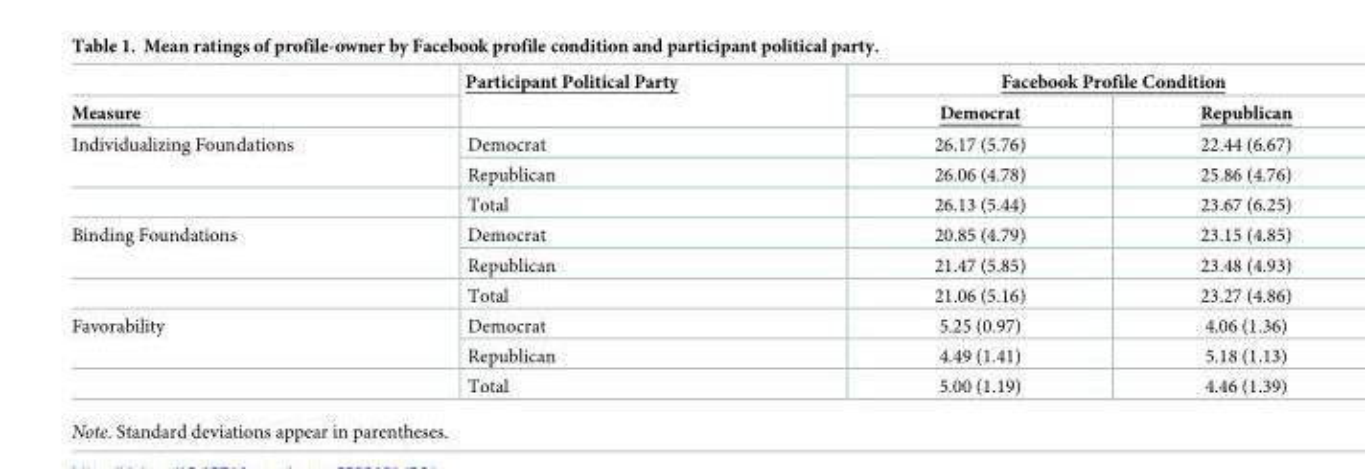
<table><thead><tr><td rowspan="2">Measure</td><td rowspan="2">Participant Political Party</td><td colspan="2">Facebook Profile Condition</td></tr><tr><td>Democrat</td><td>Republican</td></tr></thead><tbody><tr><td rowspan="3">Individualizing Foundations</td><td>Democrat</td><td>26.17 (5.76)</td><td>22.44 (6.67)</td></tr><tr><td>Republican</td><td>26.06 (4.78)</td><td>25.86 (4.76)</td></tr><tr><td>Total</td><td>26.13 (5.44)</td><td>23.67 (6.25)</td></tr><tr><td rowspan="3">Binding Foundations</td><td>Democrat</td><td>20.85 (4.79)</td><td>23.15 (4.85)</td></tr><tr><td>Republican</td><td>21.47 (5.85)</td><td>23.48 (4.93)</td></tr><tr><td>Total</td><td>21.06 (5.16)</td><td>23.27 (4.86)</td></tr><tr><td rowspan="3">Favorability</td><td>Democrat</td><td>5.25 (0.97)</td><td>4.06 (1.36)</td></tr><tr><td>Republican</td><td>4.49 (1.41)</td><td>5.18 (1.13)</td></tr><tr><td>Total</td><td>5.00 (1.19)</td><td>4.46 (1.39)</td></tr></tbody></table>